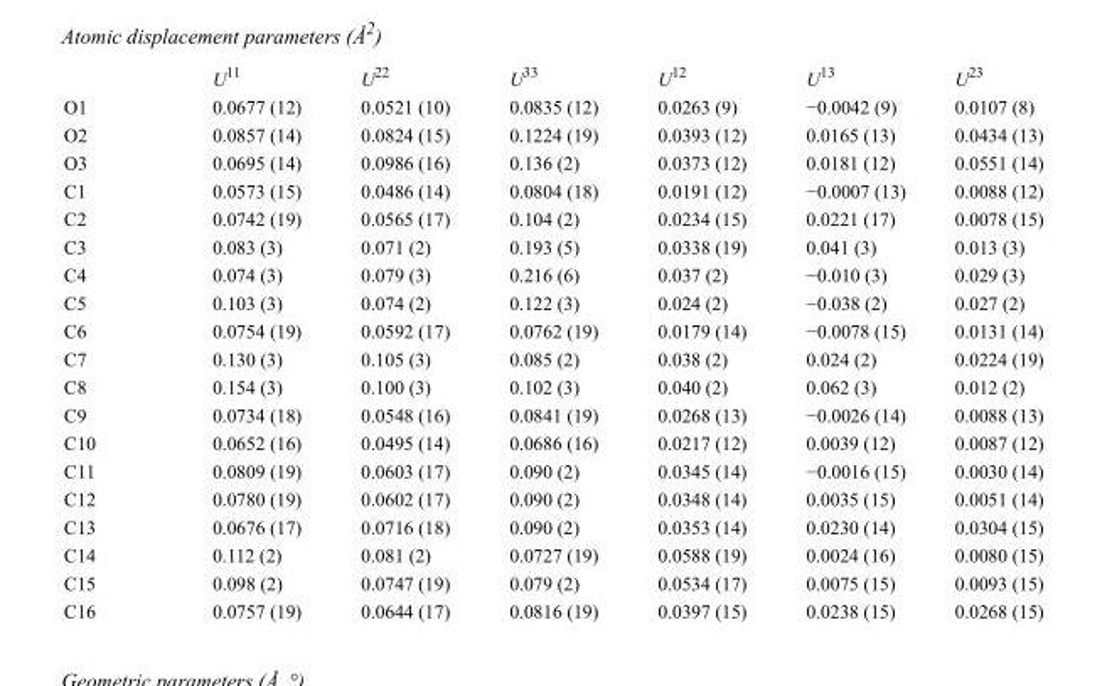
<table><thead><tr><td></td><td>U<sup>11</sup></td><td>U<sup>22</sup></td><td>U<sup>33</sup></td><td>U<sup>12</sup></td><td>U<sup>13</sup></td><td>U<sup>23</sup></td></tr></thead><tbody><tr><td>O1</td><td>0.0677 (12)</td><td>0.0521 (10)</td><td>0.0835 (12)</td><td>0.0263 (9)</td><td>−0.0042 (9)</td><td>0.0107 (8)</td></tr><tr><td>O2</td><td>0.0857 (14)</td><td>0.0824 (15)</td><td>0.1224 (19)</td><td>0.0393 (12)</td><td>0.0165 (13)</td><td>0.0434 (13)</td></tr><tr><td>O3</td><td>0.0695 (14)</td><td>0.0986 (16)</td><td>0.136 (2)</td><td>0.0373 (12)</td><td>0.0181 (12)</td><td>0.0551 (14)</td></tr><tr><td>C1</td><td>0.0573 (15)</td><td>0.0486 (14)</td><td>0.0804 (18)</td><td>0.0191 (12)</td><td>−0.0007 (13)</td><td>0.0088 (12)</td></tr><tr><td>C2</td><td>0.0742 (19)</td><td>0.0565 (17)</td><td>0.104 (2)</td><td>0.0234 (15)</td><td>0.0221 (17)</td><td>0.0078 (15)</td></tr><tr><td>C3</td><td>0.083 (3)</td><td>0.071 (2)</td><td>0.193 (5)</td><td>0.0338 (19)</td><td>0.041 (3)</td><td>0.013 (3)</td></tr><tr><td>C4</td><td>0.074 (3)</td><td>0.079 (3)</td><td>0.216 (6)</td><td>0.037 (2)</td><td>−0.010 (3)</td><td>0.029 (3)</td></tr><tr><td>C5</td><td>0.103 (3)</td><td>0.074 (2)</td><td>0.122 (3)</td><td>0.024 (2)</td><td>−0.038 (2)</td><td>0.027 (2)</td></tr><tr><td>C6</td><td>0.0754 (19)</td><td>0.0592 (17)</td><td>0.0762 (19)</td><td>0.0179 (14)</td><td>−0.0078 (15)</td><td>0.0131 (14)</td></tr><tr><td>C7</td><td>0.130 (3)</td><td>0.105 (3)</td><td>0.085 (2)</td><td>0.038 (2)</td><td>0.024 (2)</td><td>0.0224 (19)</td></tr><tr><td>C8</td><td>0.154 (3)</td><td>0.100 (3)</td><td>0.102 (3)</td><td>0.040 (2)</td><td>0.062 (3)</td><td>0.012 (2)</td></tr><tr><td>C9</td><td>0.0734 (18)</td><td>0.0548 (16)</td><td>0.0841 (19)</td><td>0.0268 (13)</td><td>−0.0026 (14)</td><td>0.0088 (13)</td></tr><tr><td>C10</td><td>0.0652 (16)</td><td>0.0495 (14)</td><td>0.0686 (16)</td><td>0.0217 (12)</td><td>0.0039 (12)</td><td>0.0087 (12)</td></tr><tr><td>C11</td><td>0.0809 (19)</td><td>0.0603 (17)</td><td>0.090 (2)</td><td>0.0345 (14)</td><td>−0.0016 (15)</td><td>0.0030 (14)</td></tr><tr><td>C12</td><td>0.0780 (19)</td><td>0.0602 (17)</td><td>0.090 (2)</td><td>0.0348 (14)</td><td>0.0035 (15)</td><td>0.0051 (14)</td></tr><tr><td>C13</td><td>0.0676 (17)</td><td>0.0716 (18)</td><td>0.090 (2)</td><td>0.0353 (14)</td><td>0.0230 (14)</td><td>0.0304 (15)</td></tr><tr><td>C14</td><td>0.112 (2)</td><td>0.081 (2)</td><td>0.0727 (19)</td><td>0.0588 (19)</td><td>0.0024 (16)</td><td>0.0080 (15)</td></tr><tr><td>C15</td><td>0.098 (2)</td><td>0.0747 (19)</td><td>0.079 (2)</td><td>0.0534 (17)</td><td>0.0075 (15)</td><td>0.0093 (15)</td></tr><tr><td>C16</td><td>0.0757 (19)</td><td>0.0644 (17)</td><td>0.0816 (19)</td><td>0.0397 (15)</td><td>0.0238 (15)</td><td>0.0268 (15)</td></tr></tbody></table>